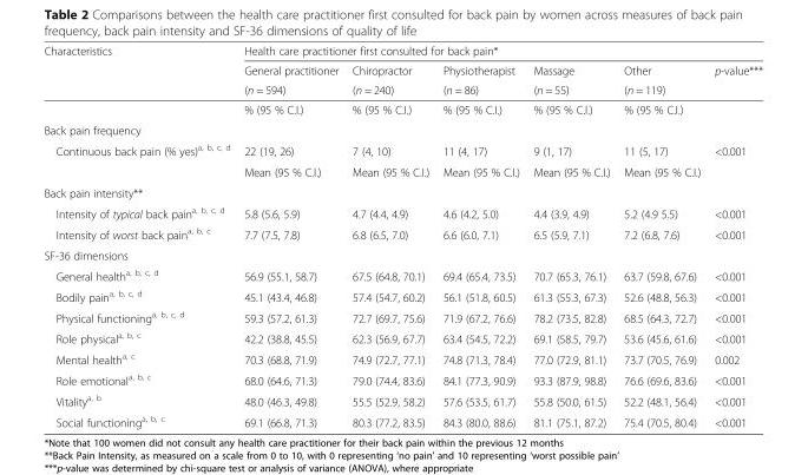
<table><thead><tr><td rowspan="3">Characteristics</td><td colspan="6">Health care practitioner first consulted for back pain*</td></tr><tr><td rowspan="2">General practitioner (n = 594)</td><td rowspan="2">Chiropractor (n = 240)</td><td rowspan="2">Physiotherapist (n = 86)</td><td rowspan="2">Massage (n = 55)</td><td rowspan="2">Other (n = 119)</td><td rowspan="2">p-value***</td></tr><tr></tr></thead><tbody><tr><td></td><td>% (95 % C.I.)</td><td>% (95 % C.I.)</td><td>% (95 % C.I.)</td><td>% (95 % C.I.)</td><td>% (95 % C.I.)</td><td></td></tr><tr><td colspan="7">Back pain frequency</td></tr><tr><td rowspan="2">Continuous back pain (% yes)<sup>a, b, c, d</sup></td><td>22 (19, 26)</td><td>7 (4, 10)</td><td>11 (4, 17)</td><td>9 (1, 17)</td><td>11 (5, 17)</td><td>&lt;0.001</td></tr><tr><td>Mean (95 % C.I.)</td><td>Mean (95 % C.I.)</td><td>Mean (95 % C.I.)</td><td>Mean (95 % C.I.)</td><td>Mean (95 % C.I.)</td><td></td></tr><tr><td colspan="7">Back pain intensity**</td></tr><tr><td>Intensity of typical back pain<sup>a, b, c, d</sup></td><td>5.8 (5.6, 5.9)</td><td>4.7 (4.4, 4.9)</td><td>4.6 (4.2, 5.0)</td><td>4.4 (3.9, 4.9)</td><td>5.2 (4.9 5.5)</td><td>&lt;0.001</td></tr><tr><td>Intensity of worst back pain<sup>a, b, c</sup></td><td>7.7 (7.5, 7.8)</td><td>6.8 (6.5, 7.0)</td><td>6.6 (6.0, 7.1)</td><td>6.5 (5.9, 7.1)</td><td>7.2 (6.8, 7.6)</td><td>&lt;0.001</td></tr><tr><td colspan="7">SF-36 dimensions</td></tr><tr><td>General health<sup>a, b, c, d</sup></td><td>56.9 (55.1, 58.7)</td><td>67.5 (64.8, 70.1)</td><td>69.4 (65.4, 73.5)</td><td>70.7 (65.3, 76.1)</td><td>63.7 (59.8, 67.6)</td><td>&lt;0.001</td></tr><tr><td>Bodily pain<sup>a, b, c, d</sup></td><td>45.1 (43.4, 46.8)</td><td>57.4 (54.7, 60.2)</td><td>56.1 (51.8, 60.5)</td><td>61.3 (55.3, 67.3)</td><td>52.6 (48.8, 56.3)</td><td>&lt;0.001</td></tr><tr><td>Physical functioning<sup>a, b, c, d</sup></td><td>59.3 (57.2, 61.3)</td><td>72.7 (69.7, 75.6)</td><td>71.9 (67.2, 76.6)</td><td>78.2 (73.5, 82.8)</td><td>68.5 (64.3, 72.7)</td><td>&lt;0.001</td></tr><tr><td>Role physical<sup>a, b, c</sup></td><td>42.2 (38.8, 45.5)</td><td>62.3 (56.9, 67.7)</td><td>63.4 (54.5, 72.2)</td><td>69.1 (58.5, 79.7)</td><td>53.6 (45.6, 61.6)</td><td>&lt;0.001</td></tr><tr><td>Mental health<sup>a, c</sup></td><td>70.3 (68.8, 71.9)</td><td>74.9 (72.7, 77.1)</td><td>74.8 (71.3, 78.4)</td><td>77.0 (72.9, 81.1)</td><td>73.7 (70.5, 76.9)</td><td>0.002</td></tr><tr><td>Role emotional<sup>a, b, c</sup></td><td>68.0 (64.6, 71.3)</td><td>79.0 (74.4, 83.6)</td><td>84.1 (77.3, 90.9)</td><td>93.3 (87.9, 98.8)</td><td>76.6 (69.6, 83.6)</td><td>&lt;0.001</td></tr><tr><td>Vitality<sup>a, b</sup></td><td>48.0 (46.3, 49.8)</td><td>55.5 (52.9, 58.2)</td><td>57.6 (53.5, 61.7)</td><td>55.8 (50.0, 61.5)</td><td>52.2 (48.1, 56.4)</td><td>&lt;0.001</td></tr><tr><td>Social functioning<sup>a, b, c</sup></td><td>69.1 (66.8, 71.3)</td><td>80.3 (77.2, 83.5)</td><td>84.3 (80.0, 88.6)</td><td>81.1 (75.1, 87.2)</td><td>75.4 (70.5, 80.4)</td><td>&lt;0.001</td></tr></tbody></table>